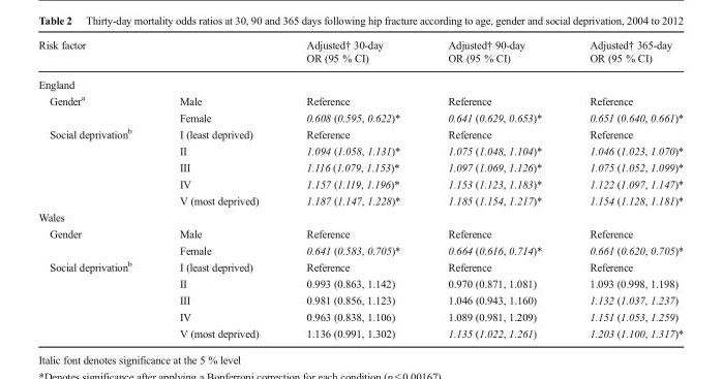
<table><thead><tr><td>Risk factor</td><td></td><td>Adjusted† 30-day OR (95 % CI)</td><td>Adjusted† 90-day OR (95 % CI)</td><td>Adjusted† 365-day OR (95 % CI)</td></tr></thead><tbody><tr><td colspan="5">England</td></tr><tr><td rowspan="2">Gender<sup>a</sup></td><td>Male</td><td>Reference</td><td>Reference</td><td>Reference</td></tr><tr><td>Female</td><td>0.608 (0.595, 0.622)*</td><td>0.641 (0.629, 0.653)*</td><td>0.651 (0.640, 0.661)*</td></tr><tr><td rowspan="5">Social deprivation<sup>b</sup></td><td>I (least deprived)</td><td>Reference</td><td>Reference</td><td>Reference</td></tr><tr><td>II</td><td>1.094 (1.058, 1.131)*</td><td>1.075 (1.048, 1.104)*</td><td>1.046 (1.023, 1.070)*</td></tr><tr><td>III</td><td>1.116 (1.079, 1.153)*</td><td>1.097 (1.069, 1.126)*</td><td>1.075 (1.052, 1.099)*</td></tr><tr><td>IV</td><td>1.157 (1.119, 1.196)*</td><td>1.153 (1.123, 1.183)*</td><td>1.122 (1.097, 1.147)*</td></tr><tr><td>V (most deprived)</td><td>1.187 (1.147, 1.228)*</td><td>1.185 (1.154, 1.217)*</td><td>1.154 (1.128, 1.181)*</td></tr><tr><td colspan="5">Wales</td></tr><tr><td rowspan="2">Gender</td><td>Male</td><td>Reference</td><td>Reference</td><td>Reference</td></tr><tr><td>Female</td><td>0.641 (0.583, 0.705)*</td><td>0.664 (0.616, 0.714)*</td><td>0.661 (0.620, 0.705)*</td></tr><tr><td rowspan="5">Social deprivation<sup>b</sup></td><td>I (least deprived)</td><td>Reference</td><td>Reference</td><td>Reference</td></tr><tr><td>II</td><td>0.993 (0.863, 1.142)</td><td>0.970 (0.871, 1.081)</td><td>1.093 (0.998, 1.198)</td></tr><tr><td>III</td><td>0.981 (0.856, 1.123)</td><td>1.046 (0.943, 1.160)</td><td>1.132 (1.037, 1.237)</td></tr><tr><td>IV</td><td>0.963 (0.838, 1.106)</td><td>1.089 (0.981, 1.209)</td><td>1.151 (1.053, 1.259)</td></tr><tr><td>V (most deprived)</td><td>1.136 (0.991, 1.302)</td><td>1.135 (1.022, 1.261)</td><td>1.203 (1.100, 1.317)*</td></tr></tbody></table>